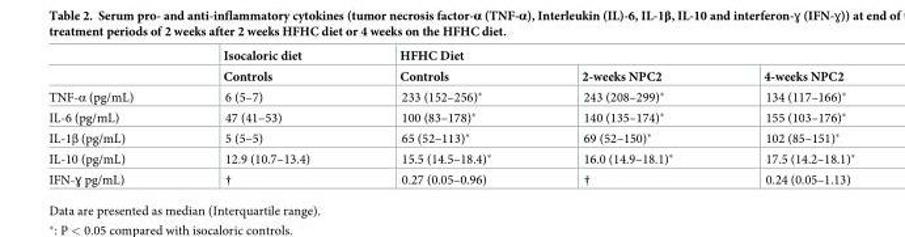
<table><thead><tr><td rowspan="2"></td><td rowspan="2">Isocaloric diet Controls</td><td colspan="3">HFHC Diet</td></tr><tr><td>Controls</td><td>2-weeks NPC2</td><td>4-weeks NPC2</td></tr></thead><tbody><tr><td>TNF-α (pg/mL)</td><td>6 (5–7)</td><td>233 (152–256)*</td><td>243 (208–299)*</td><td>134 (117–166)*</td></tr><tr><td>IL-6 (pg/mL)</td><td>47 (41–53)</td><td>100 (83–178)*</td><td>140 (135–174)*</td><td>155 (103–176)*</td></tr><tr><td>IL-1β (pg/mL)</td><td>5 (5–5)</td><td>65 (52–113)*</td><td>69 (52–150)*</td><td>102 (85–151)*</td></tr><tr><td>IL-10 (pg/mL)</td><td>12.9 (10.7–13.4)</td><td>15.5 (14.5–18.4)*</td><td>16.0 (14.9–18.1)*</td><td>17.5 (14.2–18.1)*</td></tr><tr><td>IFN-ɣ pg/mL)</td><td>†</td><td>0.27 (0.05–0.96)</td><td>†</td><td>0.24 (0.05–1.13)</td></tr></tbody></table>